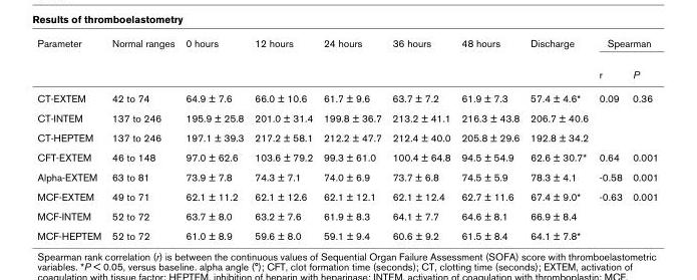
<table><thead><tr><td rowspan="2">Parameter</td><td rowspan="2">Normal ranges</td><td rowspan="2">0 hours</td><td rowspan="2">12 hours</td><td rowspan="2">24 hours</td><td rowspan="2">36 hours</td><td rowspan="2">48 hours</td><td rowspan="2">Discharge</td><td colspan="2">Spearman</td></tr><tr><td>r</td><td>P</td></tr></thead><tbody><tr><td>CT-EXTEM</td><td>42 to 74</td><td>64.9 ± 7.6</td><td>66.0 ± 10.6</td><td>61.7 ± 9.6</td><td>63.7 ± 7.2</td><td>61.9 ± 7.3</td><td>57.4 ± 4.6*</td><td>0.09</td><td>0.36</td></tr><tr><td>CT-INTEM</td><td>137 to 246</td><td>195.9 ± 25.8</td><td>201.0 ± 31.4</td><td>199.8 ± 36.7</td><td>213.2 ± 41.1</td><td>216.3 ± 43.8</td><td>206.7 ± 40.6</td><td></td><td></td></tr><tr><td>CT-HEPTEM</td><td>137 to 246</td><td>197.1 ± 39.3</td><td>217.2 ± 58.1</td><td>212.2 ± 47.7</td><td>212.4 ± 40.0</td><td>205.8 ± 29.6</td><td>192.8 ± 34.2</td><td></td><td></td></tr><tr><td>CFT-EXTEM</td><td>46 to 148</td><td>97.0 ± 62.6</td><td>103.6 ± 79.2</td><td>99.3 ± 61.0</td><td>100.4 ± 64.8</td><td>94.5 ± 54.9</td><td>62.6 ± 30.7*</td><td>0.64</td><td>0.001</td></tr><tr><td>Alpha-EXTEM</td><td>63 to 81</td><td>73.9 ± 7.8</td><td>74.3 ± 7.1</td><td>74.0 ± 6.9</td><td>73.7 ± 6.8</td><td>74.5 ± 5.9</td><td>78.3 ± 4.1</td><td>-0.58</td><td>0.001</td></tr><tr><td>MCF-EXTEM</td><td>49 to 71</td><td>62.1 ± 11.2</td><td>62.1 ± 12.6</td><td>62.1 ± 12.1</td><td>62.1 ± 12.4</td><td>62.7 ± 11.6</td><td>67.4 ± 9.0*</td><td>-0.63</td><td>0.001</td></tr><tr><td>MCF-INTEM</td><td>52 to 72</td><td>63.7 ± 8.0</td><td>63.2 ± 7.6</td><td>61.9 ± 8.3</td><td>64.1 ± 7.7</td><td>64.6 ± 8.1</td><td>66.9 ± 8.4</td><td></td><td></td></tr><tr><td>MCF-HEPTEM</td><td>52 to 72</td><td>61.0 ± 8.9</td><td>59.6 ± 8.0</td><td>59.1 ± 9.4</td><td>60.6 ± 9.2</td><td>61.5 ± 8.4</td><td>64.1 ± 7.8*</td><td></td><td></td></tr></tbody></table>